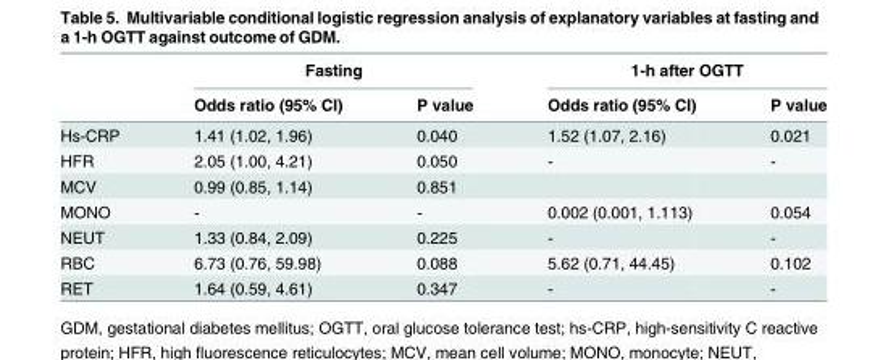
<table><thead><tr><td rowspan="2"></td><td colspan="2">Fasting</td><td colspan="2">1-h after OGTT</td></tr><tr><td>Odds ratio (95% CI)</td><td>P value</td><td>Odds ratio (95% CI)</td><td>P value</td></tr></thead><tbody><tr><td>Hs-CRP</td><td>1.41 (1.02, 1.96)</td><td>0.040</td><td>1.52 (1.07, 2.16)</td><td>0.021</td></tr><tr><td>HFR</td><td>2.05 (1.00, 4.21)</td><td>0.050</td><td>-</td><td>-</td></tr><tr><td>MCV</td><td>0.99 (0.85, 1.14)</td><td>0.851</td><td></td><td></td></tr><tr><td>MONO</td><td>-</td><td>-</td><td>0.002 (0.001, 1.113)</td><td>0.054</td></tr><tr><td>NEUT</td><td>1.33 (0.84, 2.09)</td><td>0.225</td><td>-</td><td>-</td></tr><tr><td>RBC</td><td>6.73 (0.76, 59.98)</td><td>0.088</td><td>5.62 (0.71, 44.45)</td><td>0.102</td></tr><tr><td>RET</td><td>1.64 (0.59, 4.61)</td><td>0.347</td><td>-</td><td>-</td></tr></tbody></table>